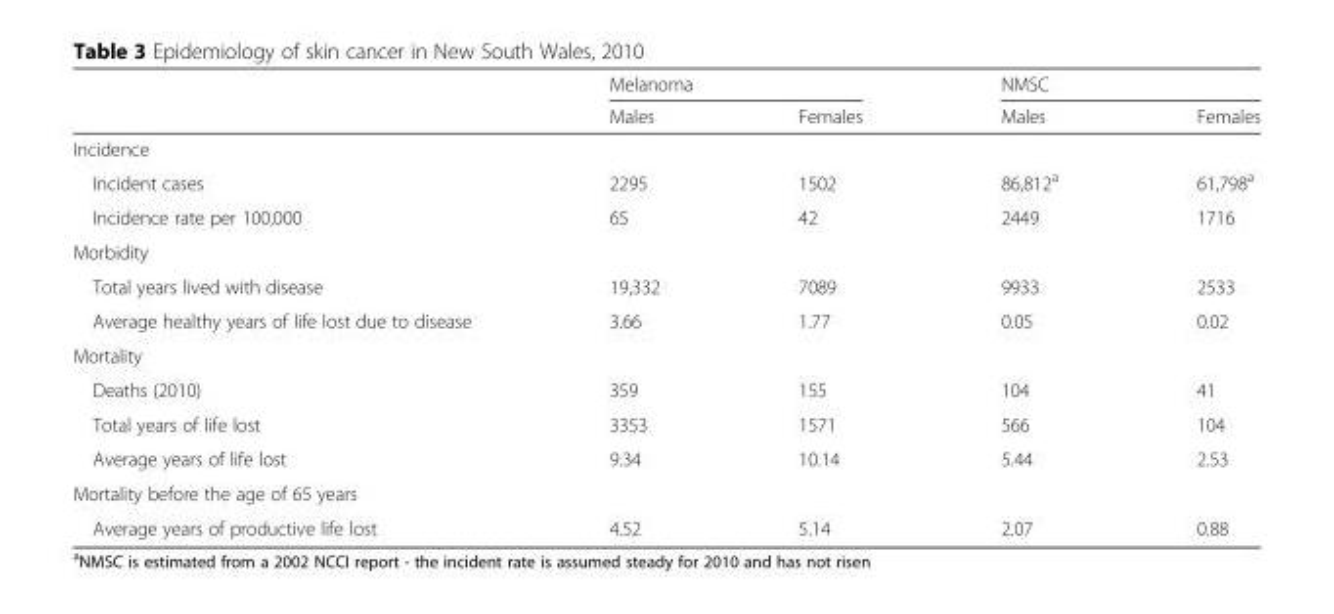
<table><thead><tr><td rowspan="2"></td><td colspan="2">Melanoma</td><td colspan="2">NMSC</td></tr><tr><td>Males</td><td>Females</td><td>Males</td><td>Females</td></tr></thead><tbody><tr><td colspan="5">Incidence</td></tr><tr><td>Incident cases</td><td>2295</td><td>1502</td><td>86,812<sup>a</sup></td><td>61,798<sup>a</sup></td></tr><tr><td>Incidence rate per 100,000</td><td>65</td><td>42</td><td>2449</td><td>1716</td></tr><tr><td colspan="5">Morbidity</td></tr><tr><td>Total years lived with disease</td><td>19,332</td><td>7089</td><td>9933</td><td>2533</td></tr><tr><td>Average healthy years of life lost due to disease</td><td>3.66</td><td>1.77</td><td>0.05</td><td>0.02</td></tr><tr><td colspan="5">Mortality</td></tr><tr><td>Deaths (2010)</td><td>359</td><td>155</td><td>104</td><td>41</td></tr><tr><td>Total years of life lost</td><td>3353</td><td>1571</td><td>566</td><td>104</td></tr><tr><td>Average years of life lost</td><td>9.34</td><td>10.14</td><td>5.44</td><td>2.53</td></tr><tr><td colspan="5">Mortality before the age of 65 years</td></tr><tr><td>Average years of productive life lost</td><td>4.52</td><td>5.14</td><td>2.07</td><td>0.88</td></tr></tbody></table>